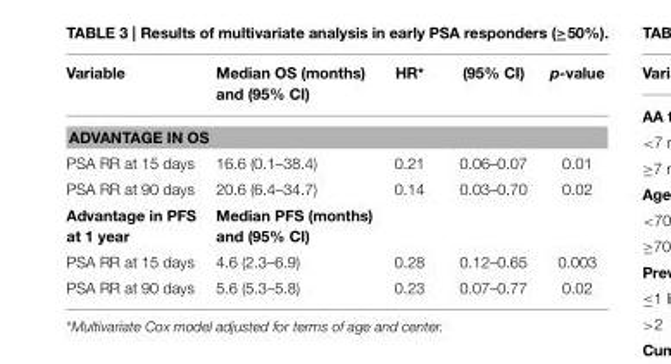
<table><thead><tr><td>Variable</td><td>Median OS (months) and (95% CI)</td><td>HR*</td><td>(95% CI)</td><td>p-value</td></tr></thead><tbody><tr><td colspan="5">ADVANTAGE IN OS</td></tr><tr><td>PSA RR at 15 days</td><td>16.6 (0.1–38.4)</td><td>0.21</td><td>0.06–0.07</td><td>0.01</td></tr><tr><td>PSA RR at 90 days</td><td>20.6 (6.4–34.7)</td><td>0.14</td><td>0.03–0.70</td><td>0.02</td></tr><tr><td>Advantage in PFS at 1 year</td><td>Median PFS (months) and (95% CI)</td><td></td><td></td><td></td></tr><tr><td>PSA RR at 15 days</td><td>4.6 (2.3–6.9)</td><td>0.28</td><td>0.12–0.65</td><td>0.003</td></tr><tr><td>PSA RR at 90 days</td><td>5.6 (5.3–5.8)</td><td>0.23</td><td>0.07–0.77</td><td>0.02</td></tr></tbody></table>